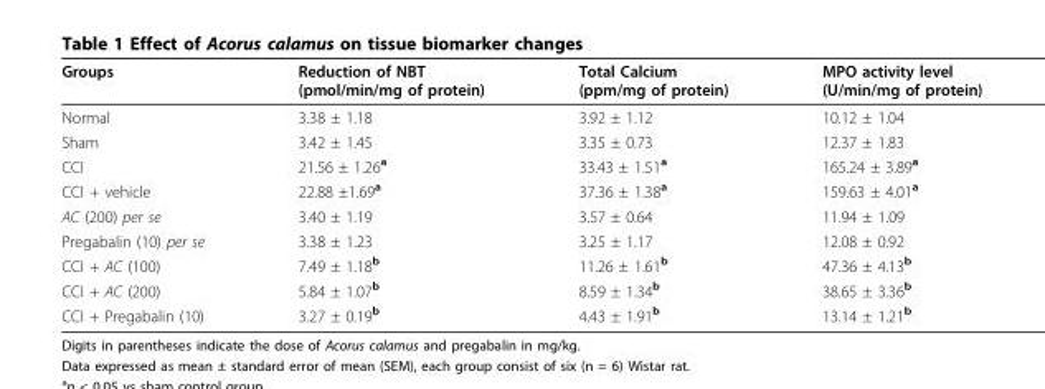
<table><thead><tr><td>Groups</td><td>Reduction of NBT (pmol/min/mg of protein)</td><td>Total Calcium (ppm/mg of protein)</td><td>MPO activity level (U/min/mg of protein)</td></tr></thead><tbody><tr><td>Normal</td><td>3.38 ± 1.18</td><td>3.92 ± 1.12</td><td>10.12 ± 1.04</td></tr><tr><td>Sham</td><td>3.42 ± 1.45</td><td>3.35 ± 0.73</td><td>12.37 ± 1.83</td></tr><tr><td>CCI</td><td>21.56 ± 1.26<sup>a</sup></td><td>33.43 ± 1.51<sup>a</sup></td><td>165.24 ± 3.89<sup>a</sup></td></tr><tr><td>CCI + vehicle</td><td>22.88 ±1.69<sup>a</sup></td><td>37.36 ± 1.38<sup>a</sup></td><td>159.63 ± 4.01<sup>a</sup></td></tr><tr><td>AC (200) per se</td><td>3.40 ± 1.19</td><td>3.57 ± 0.64</td><td>11.94 ± 1.09</td></tr><tr><td>Pregabalin (10) per se</td><td>3.38 ± 1.23</td><td>3.25 ± 1.17</td><td>12.08 ± 0.92</td></tr><tr><td>CCI + AC (100)</td><td>7.49 ± 1.18<sup>b</sup></td><td>11.26 ± 1.61<sup>b</sup></td><td>47.36 ± 4.13<sup>b</sup></td></tr><tr><td>CCI + AC (200)</td><td>5.84 ± 1.07<sup>b</sup></td><td>8.59 ± 1.34<sup>b</sup></td><td>38.65 ± 3.36<sup>b</sup></td></tr><tr><td>CCI + Pregabalin (10)</td><td>3.27 ± 0.19<sup>b</sup></td><td>4.43 ± 1.91<sup>b</sup></td><td>13.14 ± 1.21<sup>b</sup></td></tr></tbody></table>